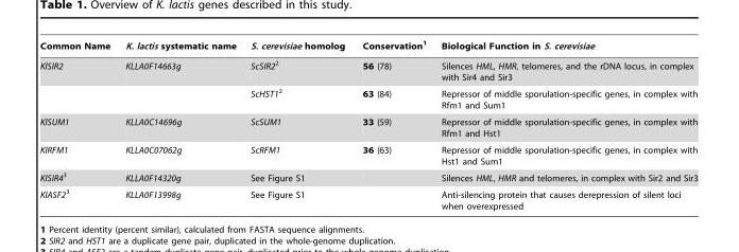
<table><thead><tr><td>Common Name</td><td>K. lactis systematic name</td><td>S. cerevisiae homolog</td><td>Conservation<sup>1</sup></td><td>Biological Function in S. cerevisiae</td></tr></thead><tbody><tr><td rowspan="2">KlSIR2</td><td>KLLA0F14663g</td><td>ScSIR22</td><td>56 (78)</td><td>Silences HML, HMR, telomeres, and the rDNA locus, in complex with Sir4 and Sir3</td></tr><tr><td></td><td>ScHST12</td><td>63 (84)</td><td>Repressor of middle sporulation-specific genes, in complex with Rfm1 and Sum1</td></tr><tr><td>KlSUM1</td><td>KLLA0C14696g</td><td>ScSUM1</td><td>33 (59)</td><td>Repressor of middle sporulation-specific genes, in complex with Rfm1 and Hst1</td></tr><tr><td>KlRFM1</td><td>KLLA0C07062g</td><td>ScRFM1</td><td>36 (63)</td><td>Repressor of middle sporulation-specific genes, in complex with Hst1 and Sum1</td></tr><tr><td>KlSIR43</td><td>KLLA0F14320g</td><td>See Figure S1</td><td></td><td>Silences HML, HMR and telomeres, in complex with Sir2 and Sir3</td></tr><tr><td>KlASF23</td><td>KLLA0F13998g</td><td>See Figure S1</td><td></td><td>Anti-silencing protein that causes derepression of silent loci when overexpressed</td></tr></tbody></table>